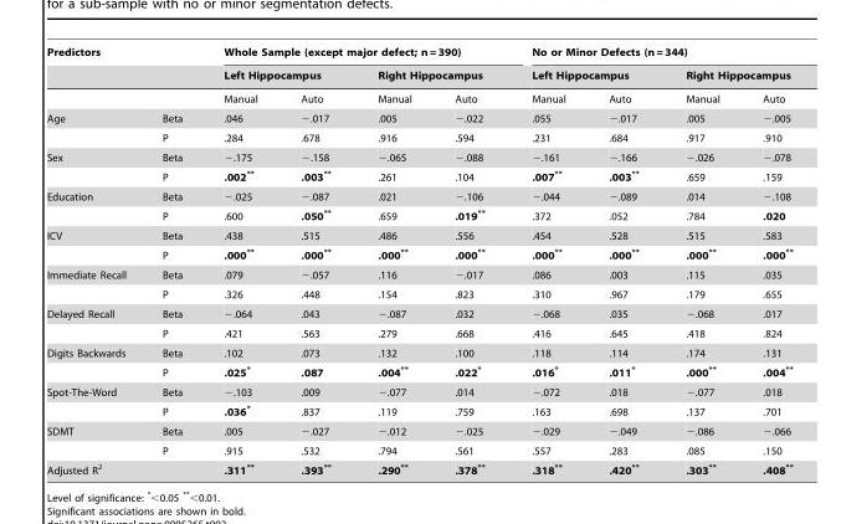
<table><thead><tr><td colspan="2">Predictors</td><td colspan="4">Whole Sample (except major defect; n = 390)</td><td colspan="4">No or Minor Defects (n = 344)</td></tr><tr><td rowspan="2"></td><td rowspan="2"></td><td colspan="2">Left Hippocampus</td><td colspan="2">Right Hippocampus</td><td colspan="2">Left Hippocampus</td><td colspan="2">Right Hippocampus</td></tr><tr><td>Manual</td><td>Auto</td><td>Manual</td><td>Auto</td><td>Manual</td><td>Auto</td><td>Manual</td><td>Auto</td></tr></thead><tbody><tr><td rowspan="2">Age</td><td>Beta</td><td>.046</td><td>−.017</td><td>.005</td><td>−.022</td><td>.055</td><td>−.017</td><td>.005</td><td>−.005</td></tr><tr><td>P</td><td>.284</td><td>.678</td><td>.916</td><td>.594</td><td>.231</td><td>.684</td><td>.917</td><td>.910</td></tr><tr><td rowspan="2">Sex</td><td>Beta</td><td>−.175</td><td>−.158</td><td>−.065</td><td>−.088</td><td>−.161</td><td>−.166</td><td>−.026</td><td>−.078</td></tr><tr><td>P</td><td>.002**</td><td>.003**</td><td>.261</td><td>.104</td><td>.007**</td><td>.003**</td><td>.659</td><td>.159</td></tr><tr><td rowspan="2">Education</td><td>Beta</td><td>−.025</td><td>−.087</td><td>.021</td><td>−.106</td><td>−.044</td><td>−.089</td><td>.014</td><td>−.108</td></tr><tr><td>P</td><td>.600</td><td>.050**</td><td>.659</td><td>.019**</td><td>.372</td><td>.052</td><td>.784</td><td>.020</td></tr><tr><td rowspan="2">ICV</td><td>Beta</td><td>.438</td><td>.515</td><td>.486</td><td>.556</td><td>.454</td><td>.528</td><td>.515</td><td>.583</td></tr><tr><td>P</td><td>.000**</td><td>.000**</td><td>.000**</td><td>.000**</td><td>.000**</td><td>.000**</td><td>.000**</td><td>.000**</td></tr><tr><td rowspan="2">Immediate Recall</td><td>Beta</td><td>.079</td><td>−.057</td><td>.116</td><td>−.017</td><td>.086</td><td>.003</td><td>.115</td><td>.035</td></tr><tr><td>P</td><td>.326</td><td>.448</td><td>.154</td><td>.823</td><td>.310</td><td>.967</td><td>.179</td><td>.655</td></tr><tr><td rowspan="2">Delayed Recall</td><td>Beta</td><td>−.064</td><td>.043</td><td>−.087</td><td>.032</td><td>−.068</td><td>.035</td><td>−.068</td><td>.017</td></tr><tr><td>P</td><td>.421</td><td>.563</td><td>.279</td><td>.668</td><td>.416</td><td>.645</td><td>.418</td><td>.824</td></tr><tr><td rowspan="2">Digits Backwards</td><td>Beta</td><td>.102</td><td>.073</td><td>.132</td><td>.100</td><td>.118</td><td>.114</td><td>.174</td><td>.131</td></tr><tr><td>P</td><td>.025*</td><td>.087</td><td>.004**</td><td>.022*</td><td>.016*</td><td>.011*</td><td>.000**</td><td>.004**</td></tr><tr><td rowspan="2">Spot-The-Word</td><td>Beta</td><td>−.103</td><td>.009</td><td>−.077</td><td>.014</td><td>−.072</td><td>.018</td><td>−.077</td><td>.018</td></tr><tr><td>P</td><td>.036*</td><td>.837</td><td>.119</td><td>.759</td><td>.163</td><td>.698</td><td>.137</td><td>.701</td></tr><tr><td rowspan="2">SDMT</td><td>Beta</td><td>.005</td><td>−.027</td><td>−.012</td><td>−.025</td><td>−.029</td><td>−.049</td><td>−.086</td><td>−.066</td></tr><tr><td>P</td><td>.915</td><td>.532</td><td>.794</td><td>.561</td><td>.557</td><td>.283</td><td>.085</td><td>.150</td></tr><tr><td>Adjusted R<sup>2</sup></td><td></td><td>.311**</td><td>.393**</td><td>.290**</td><td>.378**</td><td>.318**</td><td>.420**</td><td>.303**</td><td>.408**</td></tr></tbody></table>